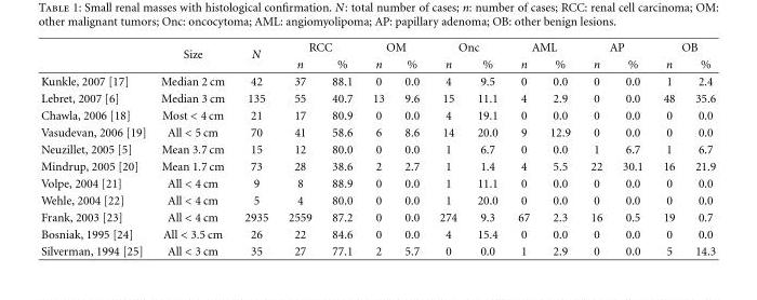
<table><thead><tr><td rowspan="2"></td><td rowspan="2">Size</td><td rowspan="2">N</td><td colspan="2">RCC</td><td colspan="2">OM</td><td colspan="2">Onc</td><td colspan="2">AML</td><td colspan="2">AP</td><td colspan="2">OB</td></tr><tr><td>n</td><td>%</td><td>n</td><td>%</td><td>n</td><td>%</td><td>n</td><td>%</td><td>n</td><td>%</td><td>n</td><td>%</td></tr></thead><tbody><tr><td>Kunkle, 2007 [17]</td><td>Median 2 cm</td><td>42</td><td>37</td><td>88.1</td><td>0</td><td>0.0</td><td>4</td><td>9.5</td><td>0</td><td>0.0</td><td>0</td><td>0.0</td><td>1</td><td>2.4</td></tr><tr><td>Lebret, 2007 [6]</td><td>Median 3 cm</td><td>135</td><td>55</td><td>40.7</td><td>13</td><td>9.6</td><td>15</td><td>11.1</td><td>4</td><td>2.9</td><td>0</td><td>0.0</td><td>48</td><td>35.6</td></tr><tr><td>Chawla, 2006 [18]</td><td>Most &lt; 4 cm</td><td>21</td><td>17</td><td>80.9</td><td>0</td><td>0.0</td><td>4</td><td>19.1</td><td>0</td><td>0.0</td><td>0</td><td>0.0</td><td>0</td><td>0.0</td></tr><tr><td>Vasudevan, 2006 [19]</td><td>All &lt; 5 cm</td><td>70</td><td>41</td><td>58.6</td><td>6</td><td>8.6</td><td>14</td><td>20.0</td><td>9</td><td>12.9</td><td>0</td><td>0.0</td><td>0</td><td>0.0</td></tr><tr><td>Neuzillet, 2005 [5]</td><td>Mean 3.7 cm</td><td>15</td><td>12</td><td>80.0</td><td>0</td><td>0.0</td><td>1</td><td>6.7</td><td>0</td><td>0.0</td><td>1</td><td>6.7</td><td>1</td><td>6.7</td></tr><tr><td>Mindrup, 2005 [20]</td><td>Mean 1.7 cm</td><td>73</td><td>28</td><td>38.6</td><td>2</td><td>2.7</td><td>1</td><td>1.4</td><td>4</td><td>5.5</td><td>22</td><td>30.1</td><td>16</td><td>21.9</td></tr><tr><td>Volpe, 2004 [21]</td><td>All &lt; 4 cm</td><td>9</td><td>8</td><td>88.9</td><td>0</td><td>0.0</td><td>1</td><td>11.1</td><td>0</td><td>0.0</td><td>0</td><td>0.0</td><td>0</td><td>0.0</td></tr><tr><td>Wehle, 2004 [22]</td><td>All &lt; 4 cm</td><td>5</td><td>4</td><td>80.0</td><td>0</td><td>0.0</td><td>1</td><td>20.0</td><td>0</td><td>0.0</td><td>0</td><td>0.0</td><td>0</td><td>0.0</td></tr><tr><td>Frank, 2003 [23]</td><td>All &lt; 4 cm</td><td>2935</td><td>2559</td><td>87.2</td><td>0</td><td>0.0</td><td>274</td><td>9.3</td><td>67</td><td>2.3</td><td>16</td><td>0.5</td><td>19</td><td>0.7</td></tr><tr><td>Bosniak, 1995 [24]</td><td>All &lt; 3.5 cm</td><td>26</td><td>22</td><td>84.6</td><td>0</td><td>0.0</td><td>4</td><td>15.4</td><td>0</td><td>0.0</td><td>0</td><td>0.0</td><td>0</td><td>0.0</td></tr><tr><td>Silverman, 1994 [25]</td><td>All &lt; 3 cm</td><td>35</td><td>27</td><td>77.1</td><td>2</td><td>5.7</td><td>0</td><td>0.0</td><td>1</td><td>2.9</td><td>0</td><td>0.0</td><td>5</td><td>14.3</td></tr></tbody></table>